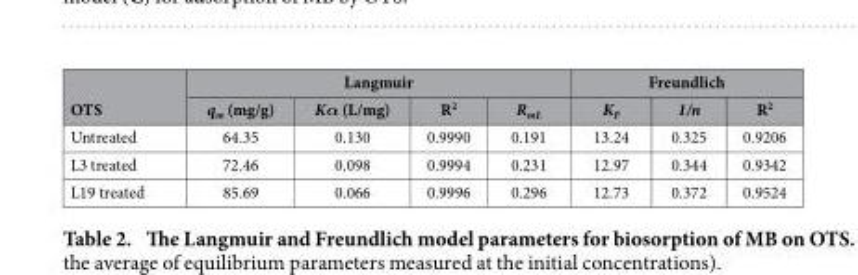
<table><thead><tr><td rowspan="2">OTS</td><td colspan="4">Langmuir</td><td colspan="3">Freundlich</td></tr><tr><td>q<sub>m</sub> (mg/g)</td><td>Kα (L/mg)</td><td>R<sup>2</sup></td><td>R<sub>mL</sub></td><td>K<sub>F</sub></td><td>1/n</td><td>R<sup>2</sup></td></tr></thead><tbody><tr><td>Untreated</td><td>64.35</td><td>0.130</td><td>0.9990</td><td>0.191</td><td>13.24</td><td>0.325</td><td>0.9206</td></tr><tr><td>L3 treated</td><td>72.46</td><td>0.098</td><td>0.9994</td><td>0.231</td><td>12.97</td><td>0.344</td><td>0.9342</td></tr><tr><td>L19 treated</td><td>85.69</td><td>0.066</td><td>0.9996</td><td>0.296</td><td>12.73</td><td>0.372</td><td>0.9524</td></tr></tbody></table>